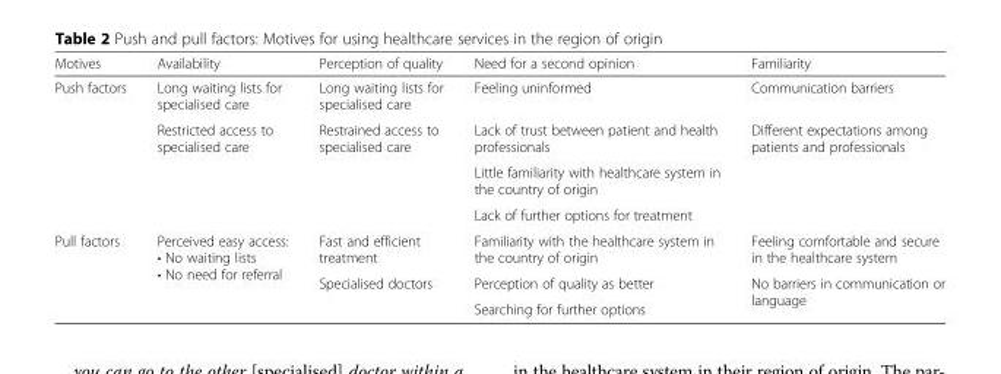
<table><thead><tr><td>Motives</td><td>Availability</td><td>Perception of quality</td><td>Need for a second opinion</td><td>Familiarity</td></tr></thead><tbody><tr><td rowspan="4">Push factors</td><td>Long waiting lists for specialised care</td><td>Long waiting lists for specialised care</td><td>Feeling uninformed</td><td>Communication barriers</td></tr><tr><td rowspan="3">Restricted access to specialised care</td><td rowspan="3">Restrained access to specialised care</td><td>Lack of trust between patient and health professionals</td><td rowspan="3">Different expectations among patients and professionals</td></tr><tr><td>Little familiarity with healthcare system in the country of origin</td></tr><tr><td>Lack of further options for treatment</td></tr><tr><td rowspan="3">Pull factors</td><td rowspan="3">Perceived easy access: • No waiting lists • No need for referral</td><td>Fast and efficient treatment</td><td>Familiarity with the healthcare system in the country of origin</td><td>Feeling comfortable and secure in the healthcare system</td></tr><tr><td rowspan="2">Specialised doctors</td><td>Perception of quality as better</td><td rowspan="2">No barriers in communication or language</td></tr><tr><td>Searching for further options</td></tr></tbody></table>